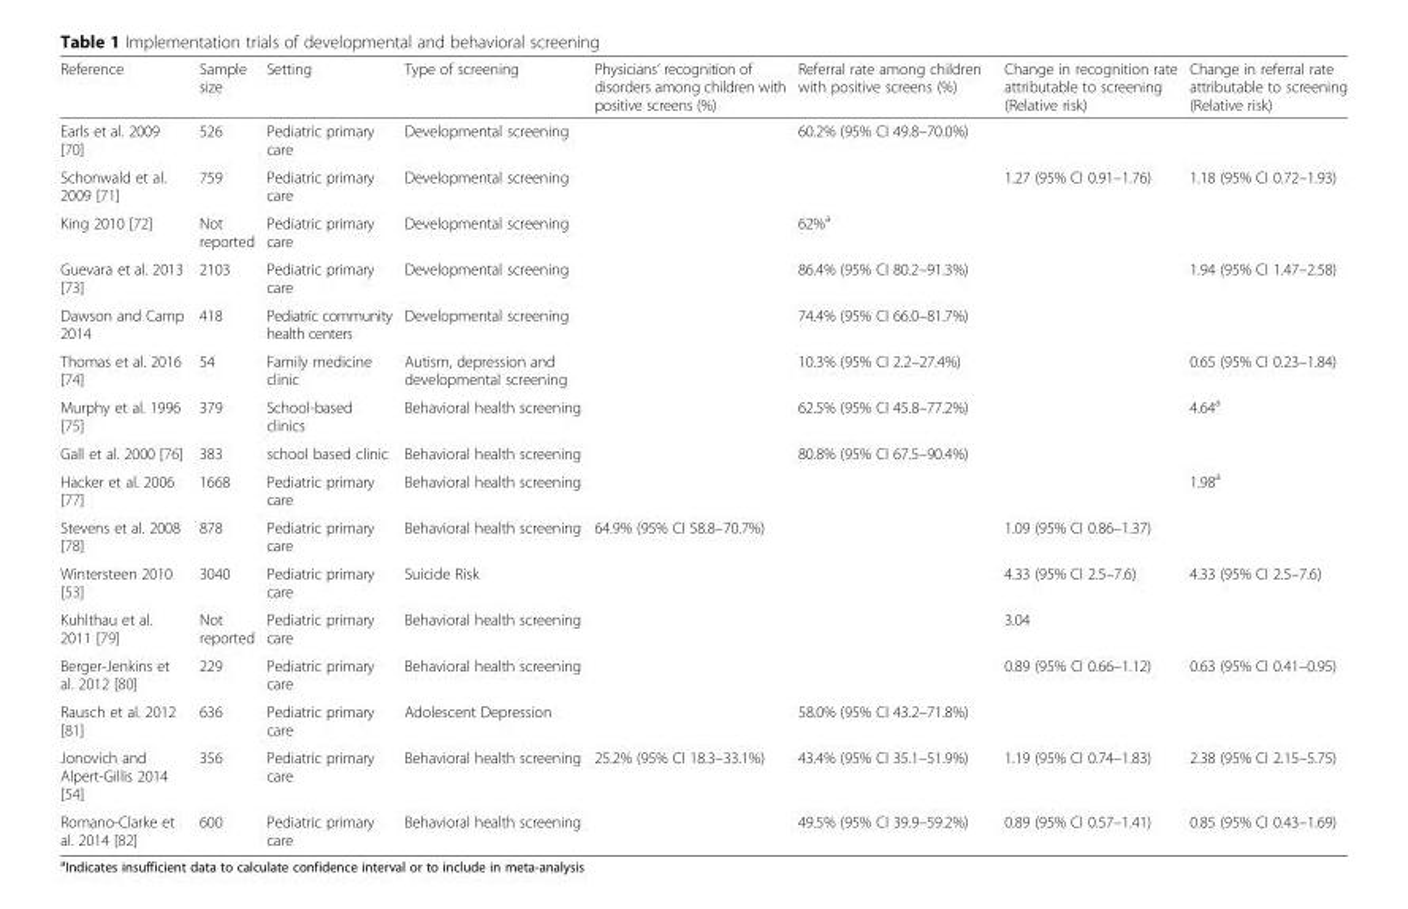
<table><thead><tr><td>Reference</td><td>Sample size</td><td>Setting</td><td>Type of screening</td><td>Physicians’ recognition of disorders among children with positive screens (%)</td><td>Referral rate among children with positive screens (%)</td><td>Change in recognition rate attributable to screening (Relative risk)</td><td>Change in referral rate attributable to screening (Relative risk)</td></tr></thead><tbody><tr><td>Earls et al. 2009 [70]</td><td>526</td><td>Pediatric primary care</td><td>Developmental screening</td><td></td><td>60.2% (95% CI 49.8–70.0%)</td><td></td><td></td></tr><tr><td>Schonwald et al. 2009 [71]</td><td>759</td><td>Pediatric primary care</td><td>Developmental screening</td><td></td><td></td><td>1.27 (95% CI 0.91–1.76)</td><td>1.18 (95% CI 0.72–1.93)</td></tr><tr><td>King 2010 [72]</td><td>Not reported</td><td>Pediatric primary care</td><td>Developmental screening</td><td></td><td>62%<sup>a</sup></td><td></td><td></td></tr><tr><td>Guevara et al. 2013 [73]</td><td>2103</td><td>Pediatric primary care</td><td>Developmental screening</td><td></td><td>86.4% (95% CI 80.2–91.3%)</td><td></td><td>1.94 (95% CI 1.47–2.58)</td></tr><tr><td>Dawson and Camp 2014</td><td>418</td><td>Pediatric community health centers</td><td>Developmental screening</td><td></td><td>74.4% (95% CI 66.0–81.7%)</td><td></td><td></td></tr><tr><td>Thomas et al. 2016 [74]</td><td>54</td><td>Family medicine clinic</td><td>Autism, depression and developmental screening</td><td></td><td>10.3% (95% CI 2.2–27.4%)</td><td></td><td>0.65 (95% CI 0.23–1.84)</td></tr><tr><td>Murphy et al. 1996 [75]</td><td>379</td><td>School-based clinics</td><td>Behavioral health screening</td><td></td><td>62.5% (95% CI 45.8–77.2%)</td><td></td><td>4.64<sup>a</sup></td></tr><tr><td>Gall et al. 2000 [76]</td><td>383</td><td>school based clinic</td><td>Behavioral health screening</td><td></td><td>80.8% (95% CI 67.5–90.4%)</td><td></td><td></td></tr><tr><td>Hacker et al. 2006 [77]</td><td>1668</td><td>Pediatric primary care</td><td>Behavioral health screening</td><td></td><td></td><td></td><td>1.98<sup>a</sup></td></tr><tr><td>Stevens et al. 2008 [78]</td><td>878</td><td>Pediatric primary care</td><td>Behavioral health screening</td><td>64.9% (95% CI 58.8–70.7%)</td><td></td><td>1.09 (95% CI 0.86–1.37)</td><td></td></tr><tr><td>Wintersteen 2010 [53]</td><td>3040</td><td>Pediatric primary care</td><td>Suicide Risk</td><td></td><td></td><td>4.33 (95% CI 2.5–7.6)</td><td>4.33 (95% CI 2.5–7.6)</td></tr><tr><td>Kuhlthau et al. 2011 [79]</td><td>Not reported</td><td>Pediatric primary care</td><td>Behavioral health screening</td><td></td><td></td><td>3.04</td><td></td></tr><tr><td>Berger-Jenkins et al. 2012 [80]</td><td>229</td><td>Pediatric primary care</td><td>Behavioral health screening</td><td></td><td></td><td>0.89 (95% CI 0.66–1.12)</td><td>0.63 (95% CI 0.41–0.95)</td></tr><tr><td>Rausch et al. 2012 [81]</td><td>636</td><td>Pediatric primary care</td><td>Adolescent Depression</td><td></td><td>58.0% (95% CI 43.2–71.8%)</td><td></td><td></td></tr><tr><td>Jonovich and Alpert-Gillis 2014 [54]</td><td>356</td><td>Pediatric primary care</td><td>Behavioral health screening</td><td>25.2% (95% CI 18.3–33.1%)</td><td>43.4% (95% CI 35.1–51.9%)</td><td>1.19 (95% CI 0.74–1.83)</td><td>2.38 (95% CI 2.15–5.75)</td></tr><tr><td>Romano-Clarke et al. 2014 [82]</td><td>600</td><td>Pediatric primary care</td><td>Behavioral health screening</td><td></td><td>49.5% (95% CI 39.9–59.2%)</td><td>0.89 (95% CI 0.57–1.41)</td><td>0.85 (95% CI 0.43–1.69)</td></tr></tbody></table>